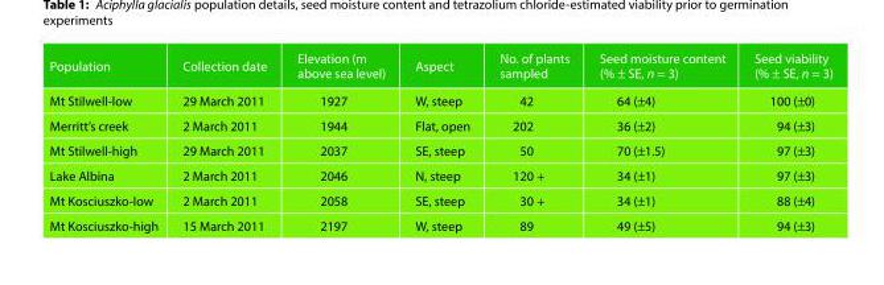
<table><thead><tr><td>Population</td><td>Collection date</td><td>Elevation (m above sea level)</td><td>Aspect</td><td>No. of plants sampled</td><td>Seed moisture content (% ± SE, n = 3)</td><td>Seed viability (% ± SE, n = 3)</td></tr></thead><tbody><tr><td>Mt Stilwell-low</td><td>29 March 2011</td><td>1927</td><td>W, steep</td><td>42</td><td>64 (±4)</td><td>100 (±0)</td></tr><tr><td>Merritt’s creek</td><td>2 March 2011</td><td>1944</td><td>Flat, open</td><td>202</td><td>36 (±2)</td><td>94 (±3)</td></tr><tr><td>Mt Stilwell-high</td><td>29 March 2011</td><td>2037</td><td>SE, steep</td><td>50</td><td>70 (±1.5)</td><td>97 (±3)</td></tr><tr><td>Lake Albina</td><td>2 March 2011</td><td>2046</td><td>N, steep</td><td>120 +</td><td>34 (±1)</td><td>97 (±3)</td></tr><tr><td>Mt Kosciuszko-low</td><td>2 March 2011</td><td>2058</td><td>SE, steep</td><td>30 +</td><td>34 (±1)</td><td>88 (±4)</td></tr><tr><td>Mt Kosciuszko-high</td><td>15 March 2011</td><td>2197</td><td>W, steep</td><td>89</td><td>49 (±5)</td><td>94 (±3)</td></tr></tbody></table>